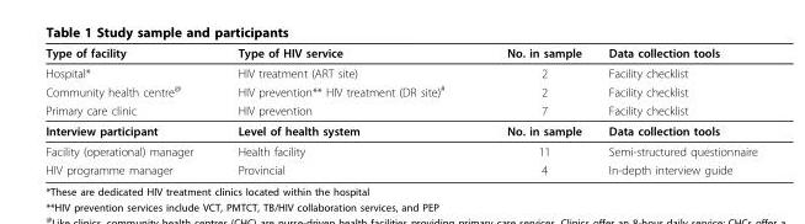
<table><thead><tr><td>Type of facility</td><td>Type of HIV service</td><td>No. in sample</td><td>Data collection tools</td></tr></thead><tbody><tr><td>Hospital*</td><td>HIV treatment (ART site)</td><td>2</td><td>Facility checklist</td></tr><tr><td>Community health centre<sup>@</sup></td><td>HIV prevention** HIV treatment (DR site)<sup>#</sup></td><td>2</td><td>Facility checklist</td></tr><tr><td>Primary care clinic</td><td>HIV prevention</td><td>7</td><td>Facility checklist</td></tr><tr><td>Interview participant</td><td>Level of health system</td><td>No. in sample</td><td>Data collection tools</td></tr><tr><td>Facility (operational) manager</td><td>Health facility</td><td>11</td><td>Semi-structured questionnaire</td></tr><tr><td>HIV programme manager</td><td>Provincial</td><td>4</td><td>In-depth interview guide</td></tr></tbody></table>